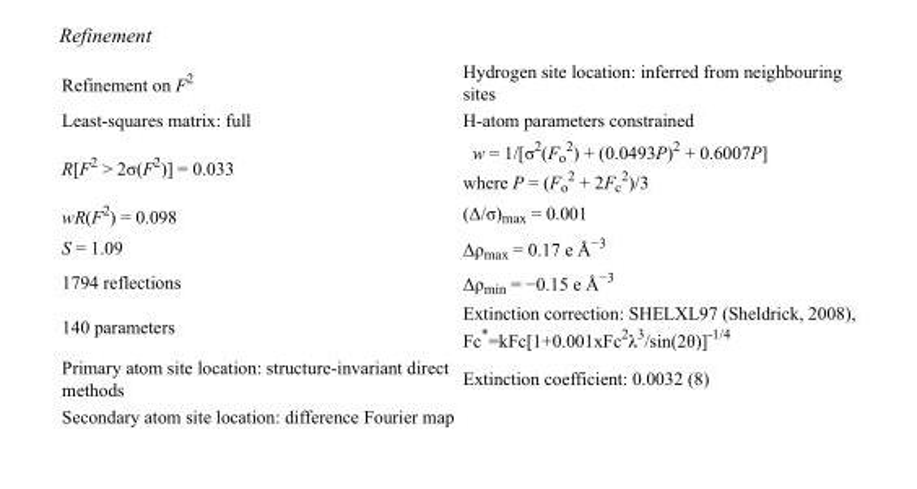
<table><tbody><tr><td>Refinement on F<sup>2</sup></td><td>Hydrogen site location: inferred from neighbouring sites</td></tr><tr><td>Least-squares matrix: full</td><td>H-atom parameters constrained</td></tr><tr><td>R[F<sup>2</sup> &gt; 2σ(F<sup>2</sup>)] = 0.033</td><td>w = 1/[σ<sup>2</sup>(F<sub>o</sub> <sup>2</sup>) + (0.0493P)<sup>2</sup> + 0.6007P] where P = (F<sub>o</sub> <sup>2</sup> + 2F<sub>c</sub> <sup>2</sup>)/3</td></tr><tr><td>wR(F<sup>2</sup>) = 0.098</td><td>(Δ/σ)<sub>max</sub> = 0.001</td></tr><tr><td>S = 1.09</td><td>Δρ<sub>max</sub> = 0.17 e Å<sup>−3</sup></td></tr><tr><td>1794 reflections</td><td>Δρ<sub>min</sub> = −0.15 e Å<sup>−3</sup></td></tr><tr><td>140 parameters</td><td>Extinction correction: SHELXL97 (Sheldrick, 2008), Fc*=kFc[1+0.001xFc<sup>2</sup>λ<sup>3</sup>/sin(2θ)]<sup>-1/4</sup></td></tr><tr><td>Primary atom site location: structure-invariant direct methods</td><td>Extinction coefficient: 0.0032 (8)</td></tr><tr><td>Secondary atom site location: difference Fourier map</td><td></td></tr></tbody></table>